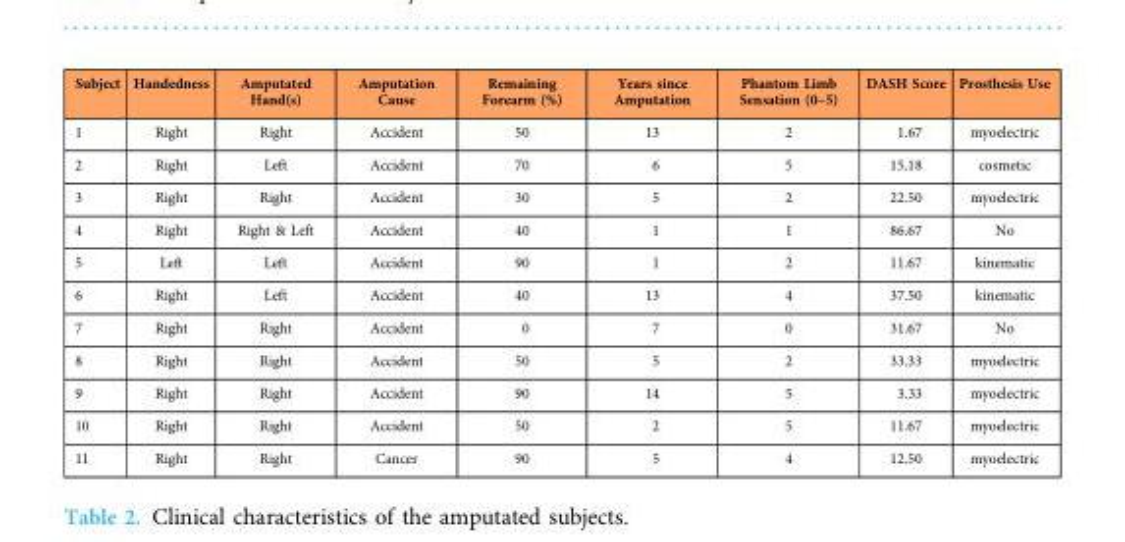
<table><thead><tr><td>Subject</td><td>Handedness</td><td>Amputated Hand(s)</td><td>Amputation Cause</td><td>Remaining Forearm (%)</td><td>Years since Amputation</td><td>Phantom Limb Sensation (0–5)</td><td>DASH Score</td><td>Prosthesis Use</td></tr></thead><tbody><tr><td>1</td><td>Right</td><td>Right</td><td>Accident</td><td>50</td><td>13</td><td>2</td><td>1.67</td><td>myoelectric</td></tr><tr><td>2</td><td>Right</td><td>Left</td><td>Accident</td><td>70</td><td>6</td><td>5</td><td>15.18</td><td>cosmetic</td></tr><tr><td>3</td><td>Right</td><td>Right</td><td>Accident</td><td>30</td><td>5</td><td>2</td><td>22.50</td><td>myoelectric</td></tr><tr><td>4</td><td>Right</td><td>Right &amp; Left</td><td>Accident</td><td>40</td><td>1</td><td>1</td><td>86.67</td><td>No</td></tr><tr><td>5</td><td>Left</td><td>Left</td><td>Accident</td><td>90</td><td>1</td><td>2</td><td>11.67</td><td>kinematic</td></tr><tr><td>6</td><td>Right</td><td>Left</td><td>Accident</td><td>40</td><td>13</td><td>4</td><td>37.50</td><td>kinematic</td></tr><tr><td>7</td><td>Right</td><td>Right</td><td>Accident</td><td>0</td><td>7</td><td>0</td><td>31.67</td><td>No</td></tr><tr><td>8</td><td>Right</td><td>Right</td><td>Accident</td><td>50</td><td>5</td><td>2</td><td>33.33</td><td>myoelectric</td></tr><tr><td>9</td><td>Right</td><td>Right</td><td>Accident</td><td>90</td><td>14</td><td>5</td><td>3.33</td><td>myoelectric</td></tr><tr><td>10</td><td>Right</td><td>Right</td><td>Accident</td><td>50</td><td>2</td><td>5</td><td>11.67</td><td>myoelectric</td></tr><tr><td>11</td><td>Right</td><td>Right</td><td>Cancer</td><td>90</td><td>5</td><td>4</td><td>12.50</td><td>myoelectric</td></tr></tbody></table>